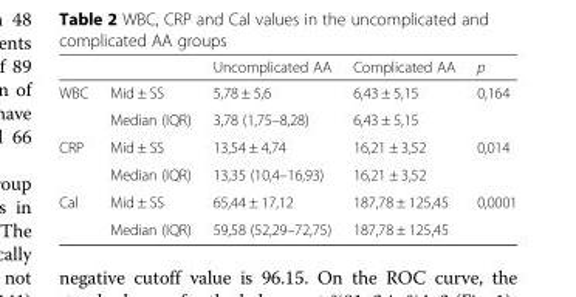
<table><thead><tr><td></td><td></td><td>Uncomplicated AA</td><td>Complicated AA</td><td>p</td></tr></thead><tbody><tr><td rowspan="2">WBC</td><td>Mid ± SS</td><td>5,78 ± 5,6</td><td>6,43 ± 5,15</td><td rowspan="2">0,164</td></tr><tr><td>Median (IQR)</td><td>3,78 (1,75–8,28)</td><td>6,43 ± 5,15</td></tr><tr><td rowspan="2">CRP</td><td>Mid ± SS</td><td>13,54 ± 4,74</td><td>16,21 ± 3,52</td><td rowspan="2">0,014</td></tr><tr><td>Median (IQR)</td><td>13,35 (10,4–16,93)</td><td>16,21 ± 3,52</td></tr><tr><td rowspan="2">Cal</td><td>Mid ± SS</td><td>65,44 ± 17,12</td><td>187,78 ± 125,45</td><td rowspan="2">0,0001</td></tr><tr><td>Median (IQR)</td><td>59,58 (52,29–72,75)</td><td>187,78 ± 125,45</td></tr></tbody></table>